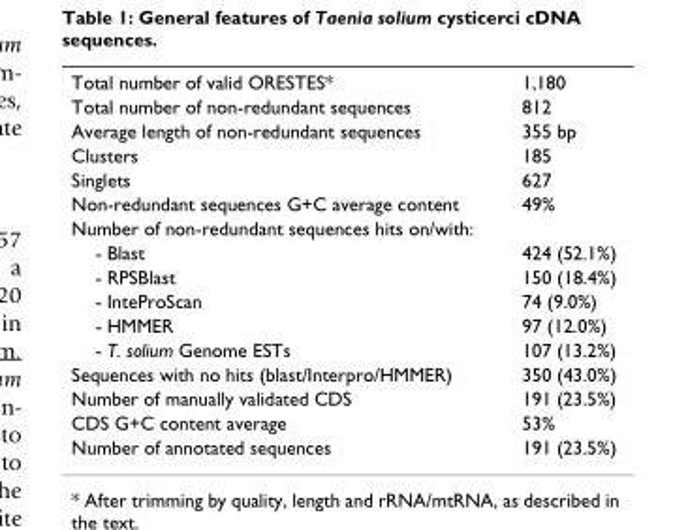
<table><tbody><tr><td>Total number of valid ORESTES*</td><td>1,180</td></tr><tr><td>Total number of non-redundant sequences</td><td>812</td></tr><tr><td>Average length of non-redundant sequences</td><td>355 bp</td></tr><tr><td>Clusters</td><td>185</td></tr><tr><td>Singlets</td><td>627</td></tr><tr><td>Non-redundant sequences G+C average content</td><td>49%</td></tr><tr><td colspan="2">Number of non-redundant sequences hits on/with:</td></tr><tr><td>- Blast</td><td>424 (52.1%)</td></tr><tr><td>- RPSBlast</td><td>150 (18.4%)</td></tr><tr><td>- InteProScan</td><td>74 (9.0%)</td></tr><tr><td>- HMMER</td><td>97 (12.0%)</td></tr><tr><td>- T. solium Genome ESTs</td><td>107 (13.2%)</td></tr><tr><td>Sequences with no hits (blast/Interpro/HMMER)</td><td>350 (43.0%)</td></tr><tr><td>Number of manually validated CDS</td><td>191 (23.5%)</td></tr><tr><td>CDS G+C content average</td><td>53%</td></tr><tr><td>Number of annotated sequences</td><td>191 (23.5%)</td></tr></tbody></table>